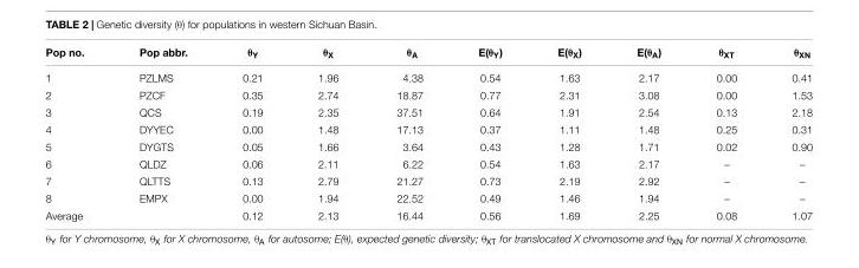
<table><thead><tr><td>Pop no.</td><td>Pop abbr.</td><td>θ<sub>Y</sub></td><td>θ<sub>X</sub></td><td>θ<sub>A</sub></td><td>E(θ<sub>Y</sub>)</td><td>E(θ<sub>X</sub>)</td><td>E(θ<sub>A</sub>)</td><td>θ<sub>XT</sub></td><td>θ<sub>XN</sub></td></tr></thead><tbody><tr><td>1</td><td>PZLMS</td><td>0.21</td><td>1.96</td><td>4.38</td><td>0.54</td><td>1.63</td><td>2.17</td><td>0.00</td><td>0.41</td></tr><tr><td>2</td><td>PZCF</td><td>0.35</td><td>2.74</td><td>18.87</td><td>0.77</td><td>2.31</td><td>3.08</td><td>0.00</td><td>1.53</td></tr><tr><td>3</td><td>QCS</td><td>0.19</td><td>2.35</td><td>37.51</td><td>0.64</td><td>1.91</td><td>2.54</td><td>0.13</td><td>2.18</td></tr><tr><td>4</td><td>DYYEC</td><td>0.00</td><td>1.48</td><td>17.13</td><td>0.37</td><td>1.11</td><td>1.48</td><td>0.25</td><td>0.31</td></tr><tr><td>5</td><td>DYGTS</td><td>0.05</td><td>1.66</td><td>3.64</td><td>0.43</td><td>1.28</td><td>1.71</td><td>0.02</td><td>0.90</td></tr><tr><td>6</td><td>QLDZ</td><td>0.06</td><td>2.11</td><td>6.22</td><td>0.54</td><td>1.63</td><td>2.17</td><td>–</td><td>–</td></tr><tr><td>7</td><td>QLTTS</td><td>0.13</td><td>2.79</td><td>21.27</td><td>0.73</td><td>2.19</td><td>2.92</td><td>–</td><td>–</td></tr><tr><td>8</td><td>EMPX</td><td>0.00</td><td>1.94</td><td>22.52</td><td>0.49</td><td>1.46</td><td>1.94</td><td>–</td><td>–</td></tr><tr><td>Average</td><td></td><td>0.12</td><td>2.13</td><td>16.44</td><td>0.56</td><td>1.69</td><td>2.25</td><td>0.08</td><td>1.07</td></tr></tbody></table>